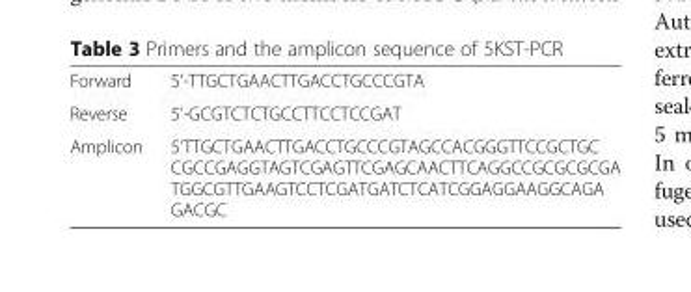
<table><tbody><tr><td>Forward</td><td>5’-TTGCTGAACTTGACCTGCCCGTA</td></tr><tr><td>Reverse</td><td>5’-GCGTCTCTGCCTTCCTCCGAT</td></tr><tr><td>Amplicon</td><td>5’TTGCTGAACTTGACCTGCCCGTAGCCACGGGTTCCGCTGC CGCCGAGGTAGTCGAGTTCGAGCAACTTCAGGCCGCGCGCGA TGGCGTTGAAGTCCTCGATGATCTCATCGGAGGAAGGCAGA GACGC</td></tr></tbody></table>